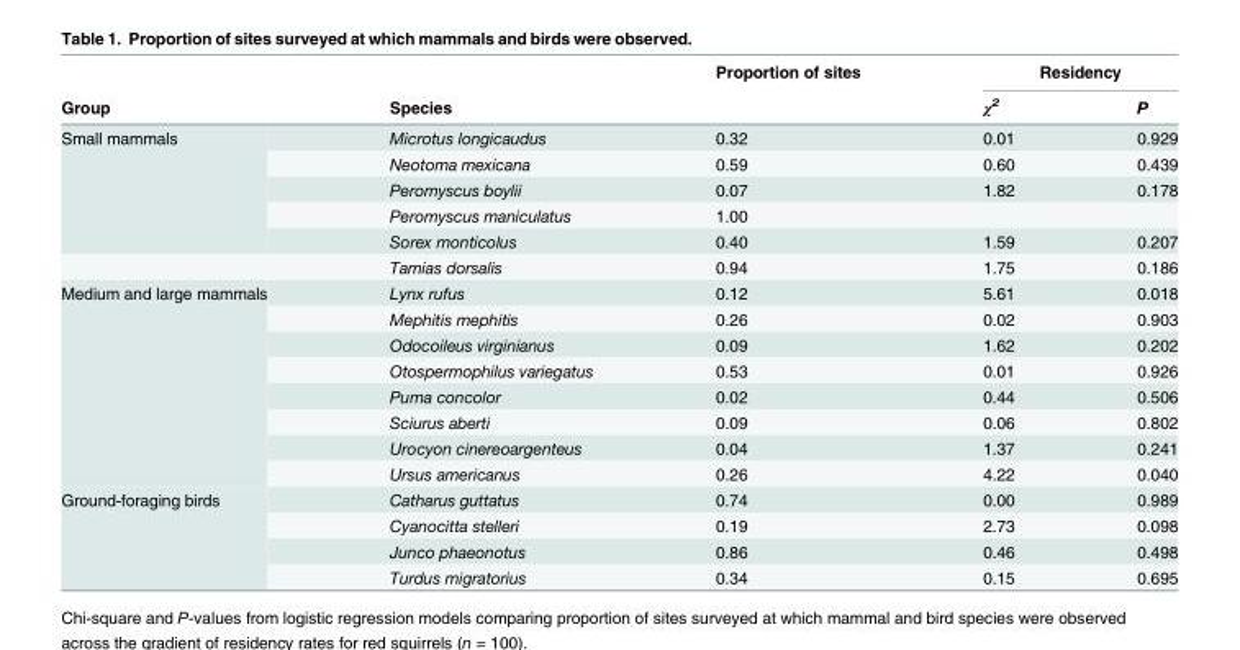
<table><thead><tr><td rowspan="2">Group</td><td rowspan="2">Species</td><td rowspan="2">Proportion of sites</td><td colspan="2">Residency</td></tr><tr><td>χ<sup>2</sup></td><td>P</td></tr></thead><tbody><tr><td rowspan="6">Small mammals</td><td>Microtus longicaudus</td><td>0.32</td><td>0.01</td><td>0.929</td></tr><tr><td>Neotoma mexicana</td><td>0.59</td><td>0.60</td><td>0.439</td></tr><tr><td>Peromyscus boylii</td><td>0.07</td><td>1.82</td><td>0.178</td></tr><tr><td>Peromyscus maniculatus</td><td>1.00</td><td></td><td></td></tr><tr><td>Sorex monticolus</td><td>0.40</td><td>1.59</td><td>0.207</td></tr><tr><td>Tamias dorsalis</td><td>0.94</td><td>1.75</td><td>0.186</td></tr><tr><td rowspan="8">Medium and large mammals</td><td>Lynx rufus</td><td>0.12</td><td>5.61</td><td>0.018</td></tr><tr><td>Mephitis mephitis</td><td>0.26</td><td>0.02</td><td>0.903</td></tr><tr><td>Odocoileus virginianus</td><td>0.09</td><td>1.62</td><td>0.202</td></tr><tr><td>Otospermophilus variegatus</td><td>0.53</td><td>0.01</td><td>0.926</td></tr><tr><td>Puma concolor</td><td>0.02</td><td>0.44</td><td>0.506</td></tr><tr><td>Sciurus aberti</td><td>0.09</td><td>0.06</td><td>0.802</td></tr><tr><td>Urocyon cinereoargenteus</td><td>0.04</td><td>1.37</td><td>0.241</td></tr><tr><td>Ursus americanus</td><td>0.26</td><td>4.22</td><td>0.040</td></tr><tr><td rowspan="4">Ground-foraging birds</td><td>Catharus guttatus</td><td>0.74</td><td>0.00</td><td>0.989</td></tr><tr><td>Cyanocitta stelleri</td><td>0.19</td><td>2.73</td><td>0.098</td></tr><tr><td>Junco phaeonotus</td><td>0.86</td><td>0.46</td><td>0.498</td></tr><tr><td>Turdus migratorius</td><td>0.34</td><td>0.15</td><td>0.695</td></tr></tbody></table>